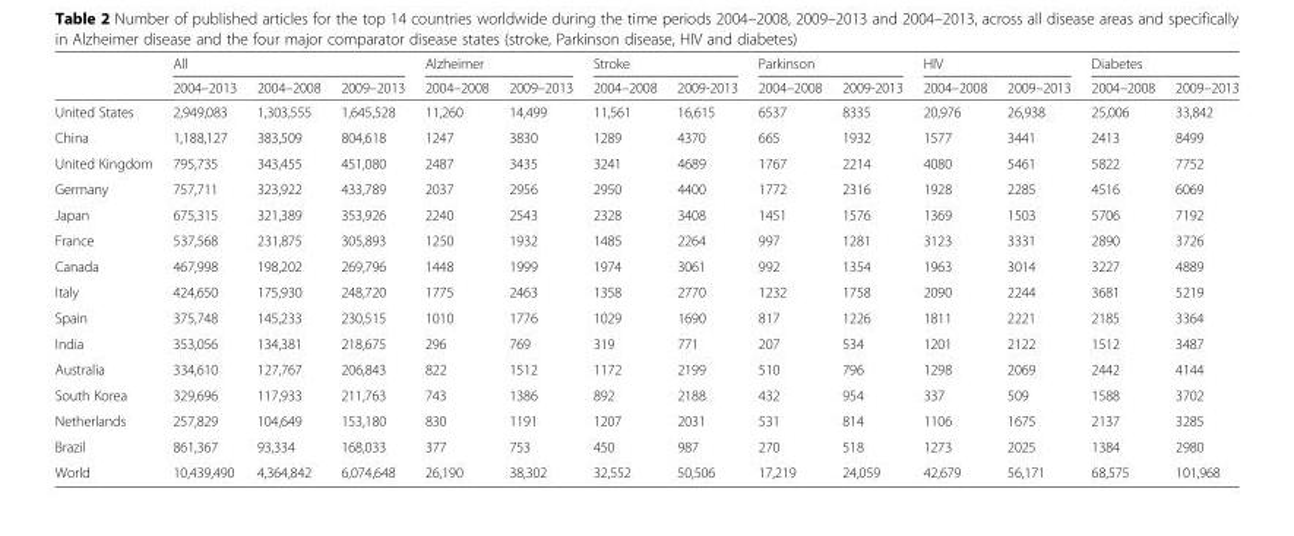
<table><thead><tr><td rowspan="2"></td><td colspan="3">All</td><td colspan="2">Alzheimer</td><td colspan="2">Stroke</td><td colspan="2">Parkinson</td><td colspan="2">HIV</td><td colspan="2">Diabetes</td></tr><tr><td>2004–2013</td><td>2004–2008</td><td>2009–2013</td><td>2004–2008</td><td>2009–2013</td><td>2004–2008</td><td>2009-2013</td><td>2004–2008</td><td>2009-2013</td><td>2004–2008</td><td>2009–2013</td><td>2004–2008</td><td>2009–2013</td></tr></thead><tbody><tr><td>United States</td><td>2,949,083</td><td>1,303,555</td><td>1,645,528</td><td>11,260</td><td>14,499</td><td>11,561</td><td>16,615</td><td>6537</td><td>8335</td><td>20,976</td><td>26,938</td><td>25,006</td><td>33,842</td></tr><tr><td>China</td><td>1,188,127</td><td>383,509</td><td>804,618</td><td>1247</td><td>3830</td><td>1289</td><td>4370</td><td>665</td><td>1932</td><td>1577</td><td>3441</td><td>2413</td><td>8499</td></tr><tr><td>United Kingdom</td><td>795,735</td><td>343,455</td><td>451,080</td><td>2487</td><td>3435</td><td>3241</td><td>4689</td><td>1767</td><td>2214</td><td>4080</td><td>5461</td><td>5822</td><td>7752</td></tr><tr><td>Germany</td><td>757,711</td><td>323,922</td><td>433,789</td><td>2037</td><td>2956</td><td>2950</td><td>4400</td><td>1772</td><td>2316</td><td>1928</td><td>2285</td><td>4516</td><td>6069</td></tr><tr><td>Japan</td><td>675,315</td><td>321,389</td><td>353,926</td><td>2240</td><td>2543</td><td>2328</td><td>3408</td><td>1451</td><td>1576</td><td>1369</td><td>1503</td><td>5706</td><td>7192</td></tr><tr><td>France</td><td>537,568</td><td>231,875</td><td>305,893</td><td>1250</td><td>1932</td><td>1485</td><td>2264</td><td>997</td><td>1281</td><td>3123</td><td>3331</td><td>2890</td><td>3726</td></tr><tr><td>Canada</td><td>467,998</td><td>198,202</td><td>269,796</td><td>1448</td><td>1999</td><td>1974</td><td>3061</td><td>992</td><td>1354</td><td>1963</td><td>3014</td><td>3227</td><td>4889</td></tr><tr><td>Italy</td><td>424,650</td><td>175,930</td><td>248,720</td><td>1775</td><td>2463</td><td>1358</td><td>2770</td><td>1232</td><td>1758</td><td>2090</td><td>2244</td><td>3681</td><td>5219</td></tr><tr><td>Spain</td><td>375,748</td><td>145,233</td><td>230,515</td><td>1010</td><td>1776</td><td>1029</td><td>1690</td><td>817</td><td>1226</td><td>1811</td><td>2221</td><td>2185</td><td>3364</td></tr><tr><td>India</td><td>353,056</td><td>134,381</td><td>218,675</td><td>296</td><td>769</td><td>319</td><td>771</td><td>207</td><td>534</td><td>1201</td><td>2122</td><td>1512</td><td>3487</td></tr><tr><td>Australia</td><td>334,610</td><td>127,767</td><td>206,843</td><td>822</td><td>1512</td><td>1172</td><td>2199</td><td>510</td><td>796</td><td>1298</td><td>2069</td><td>2442</td><td>4144</td></tr><tr><td>South Korea</td><td>329,696</td><td>117,933</td><td>211,763</td><td>743</td><td>1386</td><td>892</td><td>2188</td><td>432</td><td>954</td><td>337</td><td>509</td><td>1588</td><td>3702</td></tr><tr><td>Netherlands</td><td>257,829</td><td>104,649</td><td>153,180</td><td>830</td><td>1191</td><td>1207</td><td>2031</td><td>531</td><td>814</td><td>1106</td><td>1675</td><td>2137</td><td>3285</td></tr><tr><td>Brazil</td><td>861,367</td><td>93,334</td><td>168,033</td><td>377</td><td>753</td><td>450</td><td>987</td><td>270</td><td>518</td><td>1273</td><td>2025</td><td>1384</td><td>2980</td></tr><tr><td>World</td><td>10,439,490</td><td>4,364,842</td><td>6,074,648</td><td>26,190</td><td>38,302</td><td>32,552</td><td>50,506</td><td>17,219</td><td>24,059</td><td>42,679</td><td>56,171</td><td>68,575</td><td>101,968</td></tr></tbody></table>